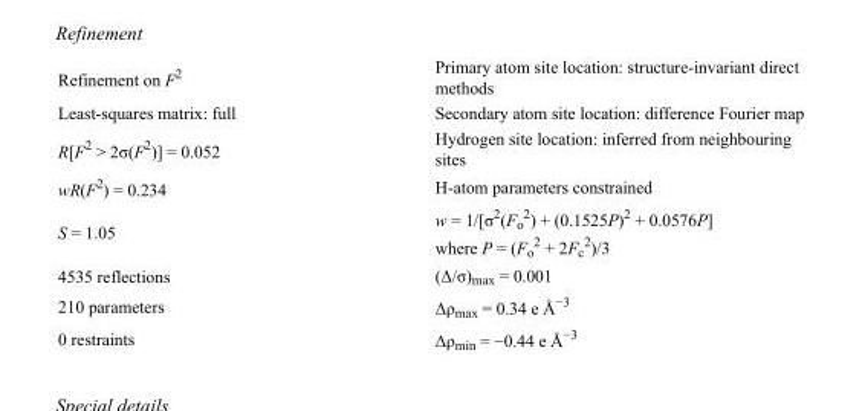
<table><tbody><tr><td>Refinement on F<sup>2</sup></td><td>Primary atom site location: structure-invariant direct methods</td></tr><tr><td>Least-squares matrix: full</td><td>Secondary atom site location: difference Fourier map</td></tr><tr><td>R[F<sup>2</sup> &gt; 2σ(F<sup>2</sup>)] = 0.052</td><td>Hydrogen site location: inferred from neighbouring sites</td></tr><tr><td>wR(F<sup>2</sup>) = 0.234</td><td>H-atom parameters constrained</td></tr><tr><td>S = 1.05</td><td>w = 1/[σ<sup>2</sup>(F<sub>o</sub> <sup>2</sup>) + (0.1525P)<sup>2</sup> + 0.0576P] where P = (F<sub>o</sub> <sup>2</sup> + 2F<sub>c</sub> <sup>2</sup>)/3</td></tr><tr><td>4535 reflections</td><td>(Δ/σ)<sub>max</sub> = 0.001</td></tr><tr><td>210 parameters</td><td>Δρ<sub>max</sub> = 0.34 e Å<sup>−3</sup></td></tr><tr><td>0 restraints</td><td>Δρ<sub>min</sub> = −0.44 e Å<sup>−3</sup></td></tr></tbody></table>